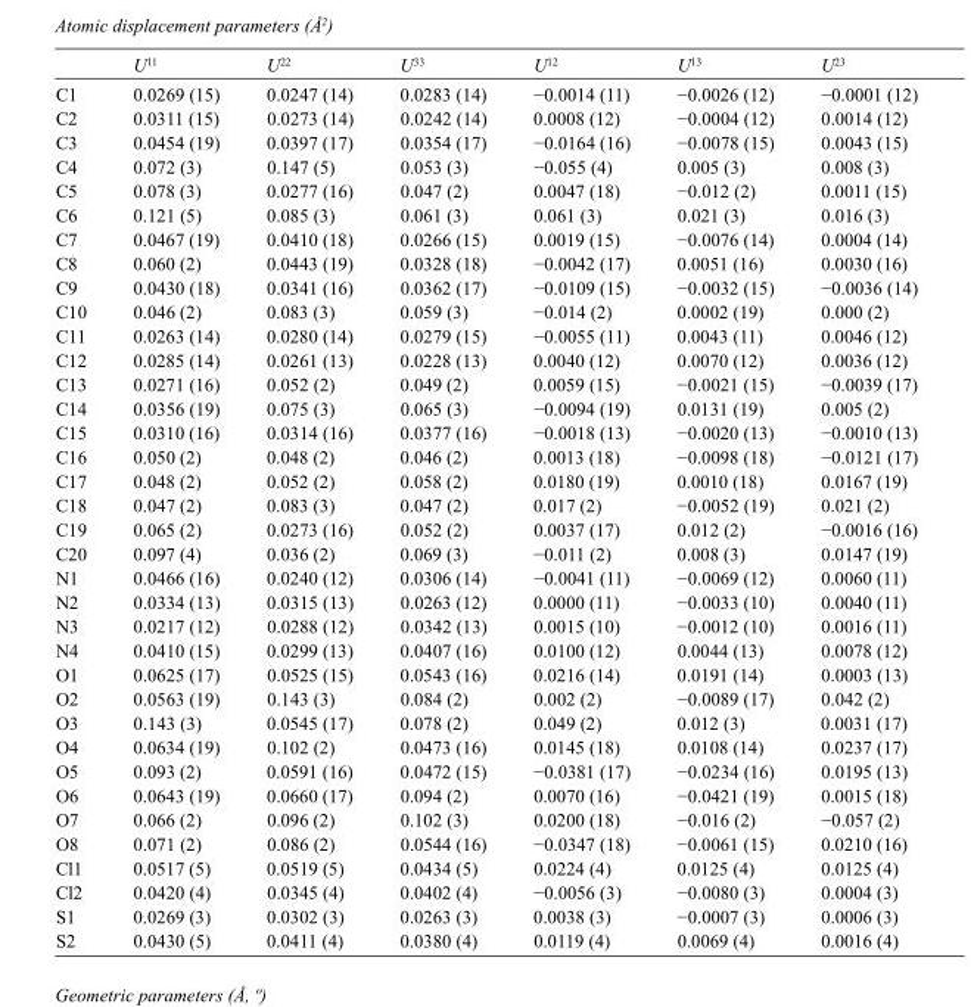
<table><thead><tr><td></td><td>U<sup>11</sup></td><td>U<sup>22</sup></td><td>U<sup>33</sup></td><td>U<sup>12</sup></td><td>U<sup>13</sup></td><td>U<sup>23</sup></td></tr></thead><tbody><tr><td>C1</td><td>0.0269 (15)</td><td>0.0247 (14)</td><td>0.0283 (14)</td><td>−0.0014 (11)</td><td>−0.0026 (12)</td><td>−0.0001 (12)</td></tr><tr><td>C2</td><td>0.0311 (15)</td><td>0.0273 (14)</td><td>0.0242 (14)</td><td>0.0008 (12)</td><td>−0.0004 (12)</td><td>0.0014 (12)</td></tr><tr><td>C3</td><td>0.0454 (19)</td><td>0.0397 (17)</td><td>0.0354 (17)</td><td>−0.0164 (16)</td><td>−0.0078 (15)</td><td>0.0043 (15)</td></tr><tr><td>C4</td><td>0.072 (3)</td><td>0.147 (5)</td><td>0.053 (3)</td><td>−0.055 (4)</td><td>0.005 (3)</td><td>0.008 (3)</td></tr><tr><td>C5</td><td>0.078 (3)</td><td>0.0277 (16)</td><td>0.047 (2)</td><td>0.0047 (18)</td><td>−0.012 (2)</td><td>0.0011 (15)</td></tr><tr><td>C6</td><td>0.121 (5)</td><td>0.085 (3)</td><td>0.061 (3)</td><td>0.061 (3)</td><td>0.021 (3)</td><td>0.016 (3)</td></tr><tr><td>C7</td><td>0.0467 (19)</td><td>0.0410 (18)</td><td>0.0266 (15)</td><td>0.0019 (15)</td><td>−0.0076 (14)</td><td>0.0004 (14)</td></tr><tr><td>C8</td><td>0.060 (2)</td><td>0.0443 (19)</td><td>0.0328 (18)</td><td>−0.0042 (17)</td><td>0.0051 (16)</td><td>0.0030 (16)</td></tr><tr><td>C9</td><td>0.0430 (18)</td><td>0.0341 (16)</td><td>0.0362 (17)</td><td>−0.0109 (15)</td><td>−0.0032 (15)</td><td>−0.0036 (14)</td></tr><tr><td>C10</td><td>0.046 (2)</td><td>0.083 (3)</td><td>0.059 (3)</td><td>−0.014 (2)</td><td>0.0002 (19)</td><td>0.000 (2)</td></tr><tr><td>C11</td><td>0.0263 (14)</td><td>0.0280 (14)</td><td>0.0279 (15)</td><td>−0.0055 (11)</td><td>0.0043 (11)</td><td>0.0046 (12)</td></tr><tr><td>C12</td><td>0.0285 (14)</td><td>0.0261 (13)</td><td>0.0228 (13)</td><td>0.0040 (12)</td><td>0.0070 (12)</td><td>0.0036 (12)</td></tr><tr><td>C13</td><td>0.0271 (16)</td><td>0.052 (2)</td><td>0.049 (2)</td><td>0.0059 (15)</td><td>−0.0021 (15)</td><td>−0.0039 (17)</td></tr><tr><td>C14</td><td>0.0356 (19)</td><td>0.075 (3)</td><td>0.065 (3)</td><td>−0.0094 (19)</td><td>0.0131 (19)</td><td>0.005 (2)</td></tr><tr><td>C15</td><td>0.0310 (16)</td><td>0.0314 (16)</td><td>0.0377 (16)</td><td>−0.0018 (13)</td><td>−0.0020 (13)</td><td>−0.0010 (13)</td></tr><tr><td>C16</td><td>0.050 (2)</td><td>0.048 (2)</td><td>0.046 (2)</td><td>0.0013 (18)</td><td>−0.0098 (18)</td><td>−0.0121 (17)</td></tr><tr><td>C17</td><td>0.048 (2)</td><td>0.052 (2)</td><td>0.058 (2)</td><td>0.0180 (19)</td><td>0.0010 (18)</td><td>0.0167 (19)</td></tr><tr><td>C18</td><td>0.047 (2)</td><td>0.083 (3)</td><td>0.047 (2)</td><td>0.017 (2)</td><td>−0.0052 (19)</td><td>0.021 (2)</td></tr><tr><td>C19</td><td>0.065 (2)</td><td>0.0273 (16)</td><td>0.052 (2)</td><td>0.0037 (17)</td><td>0.012 (2)</td><td>−0.0016 (16)</td></tr><tr><td>C20</td><td>0.097 (4)</td><td>0.036 (2)</td><td>0.069 (3)</td><td>−0.011 (2)</td><td>0.008 (3)</td><td>0.0147 (19)</td></tr><tr><td>N1</td><td>0.0466 (16)</td><td>0.0240 (12)</td><td>0.0306 (14)</td><td>−0.0041 (11)</td><td>−0.0069 (12)</td><td>0.0060 (11)</td></tr><tr><td>N2</td><td>0.0334 (13)</td><td>0.0315 (13)</td><td>0.0263 (12)</td><td>0.0000 (11)</td><td>−0.0033 (10)</td><td>0.0040 (11)</td></tr><tr><td>N3</td><td>0.0217 (12)</td><td>0.0288 (12)</td><td>0.0342 (13)</td><td>0.0015 (10)</td><td>−0.0012 (10)</td><td>0.0016 (11)</td></tr><tr><td>N4</td><td>0.0410 (15)</td><td>0.0299 (13)</td><td>0.0407 (16)</td><td>0.0100 (12)</td><td>0.0044 (13)</td><td>0.0078 (12)</td></tr><tr><td>O1</td><td>0.0625 (17)</td><td>0.0525 (15)</td><td>0.0543 (16)</td><td>0.0216 (14)</td><td>0.0191 (14)</td><td>0.0003 (13)</td></tr><tr><td>O2</td><td>0.0563 (19)</td><td>0.143 (3)</td><td>0.084 (2)</td><td>0.002 (2)</td><td>−0.0089 (17)</td><td>0.042 (2)</td></tr><tr><td>O3</td><td>0.143 (3)</td><td>0.0545 (17)</td><td>0.078 (2)</td><td>0.049 (2)</td><td>0.012 (3)</td><td>0.0031 (17)</td></tr><tr><td>O4</td><td>0.0634 (19)</td><td>0.102 (2)</td><td>0.0473 (16)</td><td>0.0145 (18)</td><td>0.0108 (14)</td><td>0.0237 (17)</td></tr><tr><td>O5</td><td>0.093 (2)</td><td>0.0591 (16)</td><td>0.0472 (15)</td><td>−0.0381 (17)</td><td>−0.0234 (16)</td><td>0.0195 (13)</td></tr><tr><td>O6</td><td>0.0643 (19)</td><td>0.0660 (17)</td><td>0.094 (2)</td><td>0.0070 (16)</td><td>−0.0421 (19)</td><td>0.0015 (18)</td></tr><tr><td>O7</td><td>0.066 (2)</td><td>0.096 (2)</td><td>0.102 (3)</td><td>0.0200 (18)</td><td>−0.016 (2)</td><td>−0.057 (2)</td></tr><tr><td>O8</td><td>0.071 (2)</td><td>0.086 (2)</td><td>0.0544 (16)</td><td>−0.0347 (18)</td><td>−0.0061 (15)</td><td>0.0210 (16)</td></tr><tr><td>Cl1</td><td>0.0517 (5)</td><td>0.0519 (5)</td><td>0.0434 (5)</td><td>0.0224 (4)</td><td>0.0125 (4)</td><td>0.0125 (4)</td></tr><tr><td>Cl2</td><td>0.0420 (4)</td><td>0.0345 (4)</td><td>0.0402 (4)</td><td>−0.0056 (3)</td><td>−0.0080 (3)</td><td>0.0004 (3)</td></tr><tr><td>S1</td><td>0.0269 (3)</td><td>0.0302 (3)</td><td>0.0263 (3)</td><td>0.0038 (3)</td><td>−0.0007 (3)</td><td>0.0006 (3)</td></tr><tr><td>S2</td><td>0.0430 (5)</td><td>0.0411 (4)</td><td>0.0380 (4)</td><td>0.0119 (4)</td><td>0.0069 (4)</td><td>0.0016 (4)</td></tr></tbody></table>